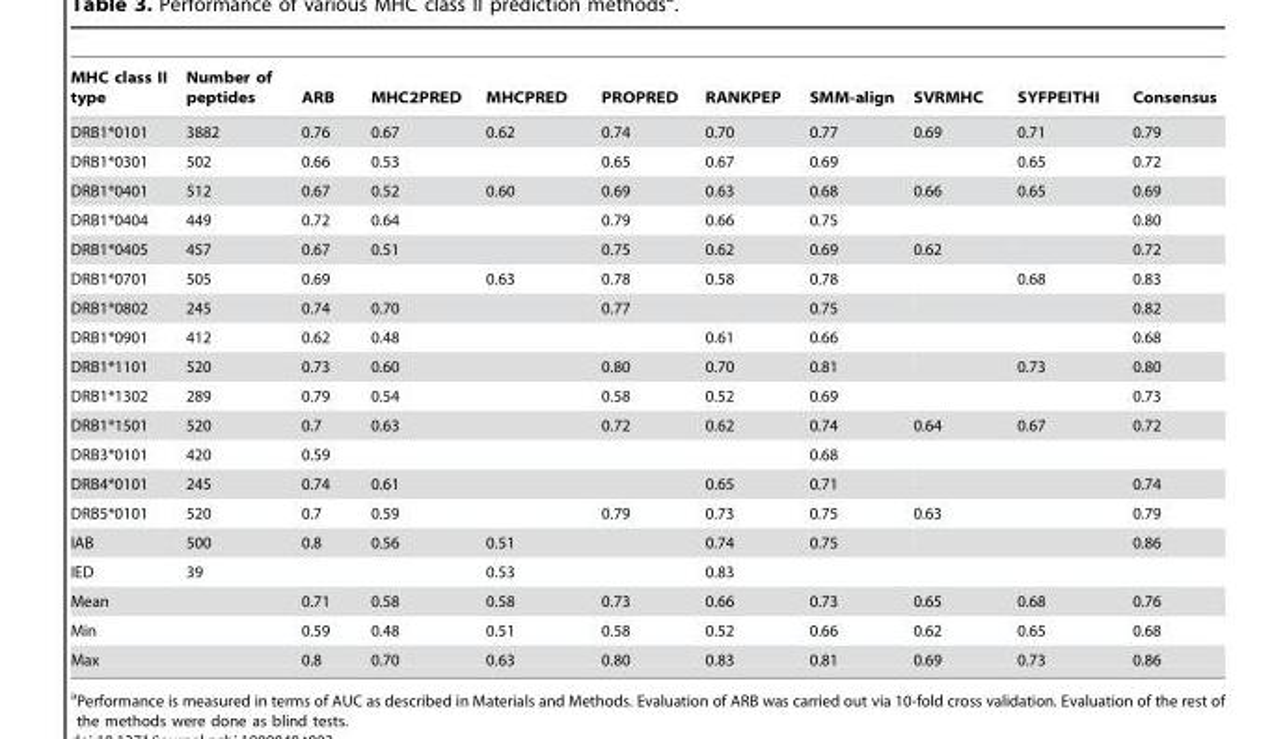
<table><thead><tr><td>MHC class II type</td><td>Number of peptides</td><td>ARB</td><td>MHC2PRED</td><td>MHCPRED</td><td>PROPRED</td><td>RANKPEP</td><td>SMM-align</td><td>SVRMHC</td><td>SYFPEITHI</td><td>Consensus</td></tr></thead><tbody><tr><td>DRB1*0101</td><td>3882</td><td>0.76</td><td>0.67</td><td>0.62</td><td>0.74</td><td>0.70</td><td>0.77</td><td>0.69</td><td>0.71</td><td>0.79</td></tr><tr><td>DRB1*0301</td><td>502</td><td>0.66</td><td>0.53</td><td></td><td>0.65</td><td>0.67</td><td>0.69</td><td></td><td>0.65</td><td>0.72</td></tr><tr><td>DRB1*0401</td><td>512</td><td>0.67</td><td>0.52</td><td>0.60</td><td>0.69</td><td>0.63</td><td>0.68</td><td>0.66</td><td>0.65</td><td>0.69</td></tr><tr><td>DRB1*0404</td><td>449</td><td>0.72</td><td>0.64</td><td></td><td>0.79</td><td>0.66</td><td>0.75</td><td></td><td></td><td>0.80</td></tr><tr><td>DRB1*0405</td><td>457</td><td>0.67</td><td>0.51</td><td></td><td>0.75</td><td>0.62</td><td>0.69</td><td>0.62</td><td></td><td>0.72</td></tr><tr><td>DRB1*0701</td><td>505</td><td>0.69</td><td></td><td>0.63</td><td>0.78</td><td>0.58</td><td>0.78</td><td></td><td>0.68</td><td>0.83</td></tr><tr><td>DRB1*0802</td><td>245</td><td>0.74</td><td>0.70</td><td></td><td>0.77</td><td></td><td>0.75</td><td></td><td></td><td>0.82</td></tr><tr><td>DRB1*0901</td><td>412</td><td>0.62</td><td>0.48</td><td></td><td></td><td>0.61</td><td>0.66</td><td></td><td></td><td>0.68</td></tr><tr><td>DRB1*1101</td><td>520</td><td>0.73</td><td>0.60</td><td></td><td>0.80</td><td>0.70</td><td>0.81</td><td></td><td>0.73</td><td>0.80</td></tr><tr><td>DRB1*1302</td><td>289</td><td>0.79</td><td>0.54</td><td></td><td>0.58</td><td>0.52</td><td>0.69</td><td></td><td></td><td>0.73</td></tr><tr><td>DRB1*1501</td><td>520</td><td>0.7</td><td>0.63</td><td></td><td>0.72</td><td>0.62</td><td>0.74</td><td>0.64</td><td>0.67</td><td>0.72</td></tr><tr><td>DRB3*0101</td><td>420</td><td>0.59</td><td></td><td></td><td></td><td></td><td>0.68</td><td></td><td></td><td></td></tr><tr><td>DRB4*0101</td><td>245</td><td>0.74</td><td>0.61</td><td></td><td></td><td>0.65</td><td>0.71</td><td></td><td></td><td>0.74</td></tr><tr><td>DRB5*0101</td><td>520</td><td>0.7</td><td>0.59</td><td></td><td>0.79</td><td>0.73</td><td>0.75</td><td>0.63</td><td></td><td>0.79</td></tr><tr><td>IAB</td><td>500</td><td>0.8</td><td>0.56</td><td>0.51</td><td></td><td>0.74</td><td>0.75</td><td></td><td></td><td>0.86</td></tr><tr><td>IED</td><td>39</td><td></td><td></td><td>0.53</td><td></td><td>0.83</td><td></td><td></td><td></td><td></td></tr><tr><td>Mean</td><td></td><td>0.71</td><td>0.58</td><td>0.58</td><td>0.73</td><td>0.66</td><td>0.73</td><td>0.65</td><td>0.68</td><td>0.76</td></tr><tr><td>Min</td><td></td><td>0.59</td><td>0.48</td><td>0.51</td><td>0.58</td><td>0.52</td><td>0.66</td><td>0.62</td><td>0.65</td><td>0.68</td></tr><tr><td>Max</td><td></td><td>0.8</td><td>0.70</td><td>0.63</td><td>0.80</td><td>0.83</td><td>0.81</td><td>0.69</td><td>0.73</td><td>0.86</td></tr></tbody></table>